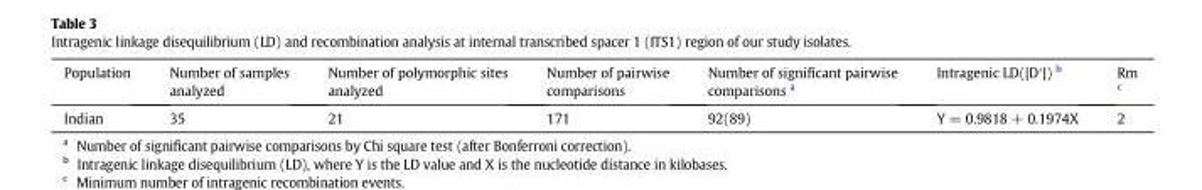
<table><thead><tr><td>Population</td><td>Number of samples analyzed</td><td>Number of polymorphic sites analyzed</td><td>Number of pairwise comparisons</td><td>Number of significant pairwise comparisons a</td><td>Intragenic LD(|D′|) b</td><td>Rm c</td></tr></thead><tbody><tr><td>Indian</td><td>35</td><td>21</td><td>171</td><td>92(89)</td><td>Y = 0.9818 + 0.1974X</td><td>2</td></tr></tbody></table>